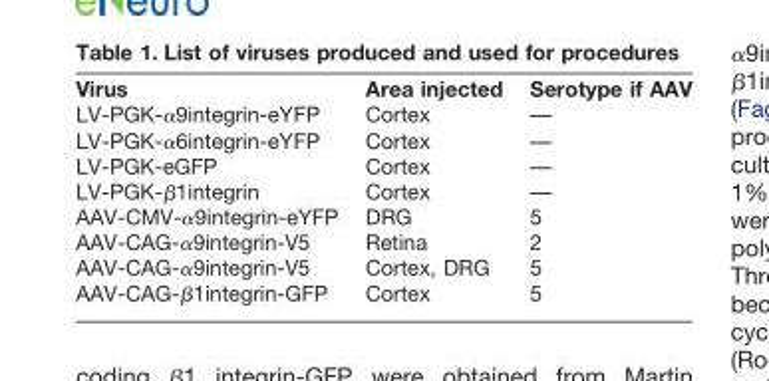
<table><thead><tr><td>Virus</td><td>Area injected</td><td>Serotype if AAV</td></tr></thead><tbody><tr><td>LV-PGK-α9integrin-eYFP</td><td>Cortex</td><td>—</td></tr><tr><td>LV-PGK-α6integrin-eYFP</td><td>Cortex</td><td>—</td></tr><tr><td>LV-PGK-eGFP</td><td>Cortex</td><td>—</td></tr><tr><td>LV-PGK-β1integrin</td><td>Cortex</td><td>—</td></tr><tr><td>AAV-CMV-α9integrin-eYFP</td><td>DRG</td><td>5</td></tr><tr><td>AAV-CAG-α9integrin-V5</td><td>Retina</td><td>2</td></tr><tr><td>AAV-CAG-α9integrin-V5</td><td>Cortex, DRG</td><td>5</td></tr><tr><td>AAV-CAG-β1integrin-GFP</td><td>Cortex</td><td>5</td></tr></tbody></table>